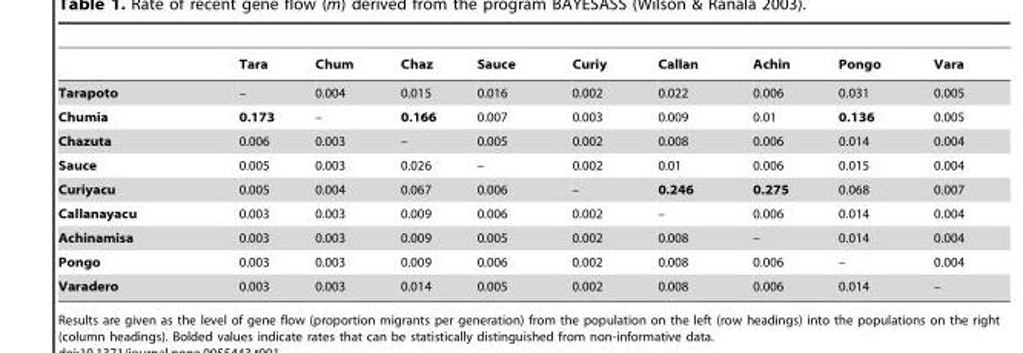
<table><thead><tr><td></td><td>Tara</td><td>Chum</td><td>Chaz</td><td>Sauce</td><td>Curiy</td><td>Callan</td><td>Achin</td><td>Pongo</td><td>Vara</td></tr></thead><tbody><tr><td>Tarapoto</td><td>–</td><td>0.004</td><td>0.015</td><td>0.016</td><td>0.002</td><td>0.022</td><td>0.006</td><td>0.031</td><td>0.005</td></tr><tr><td>Chumia</td><td>0.173</td><td>–</td><td>0.166</td><td>0.007</td><td>0.003</td><td>0.009</td><td>0.01</td><td>0.136</td><td>0.005</td></tr><tr><td>Chazuta</td><td>0.006</td><td>0.003</td><td>–</td><td>0.005</td><td>0.002</td><td>0.008</td><td>0.006</td><td>0.014</td><td>0.004</td></tr><tr><td>Sauce</td><td>0.005</td><td>0.003</td><td>0.026</td><td>–</td><td>0.002</td><td>0.01</td><td>0.006</td><td>0.015</td><td>0.004</td></tr><tr><td>Curiyacu</td><td>0.005</td><td>0.004</td><td>0.067</td><td>0.006</td><td>–</td><td>0.246</td><td>0.275</td><td>0.068</td><td>0.007</td></tr><tr><td>Callanayacu</td><td>0.003</td><td>0.003</td><td>0.009</td><td>0.006</td><td>0.002</td><td>–</td><td>0.006</td><td>0.014</td><td>0.004</td></tr><tr><td>Achinamisa</td><td>0.003</td><td>0.003</td><td>0.009</td><td>0.005</td><td>0.002</td><td>0.008</td><td>–</td><td>0.014</td><td>0.004</td></tr><tr><td>Pongo</td><td>0.003</td><td>0.003</td><td>0.009</td><td>0.006</td><td>0.002</td><td>0.008</td><td>0.006</td><td>–</td><td>0.004</td></tr><tr><td>Varadero</td><td>0.003</td><td>0.003</td><td>0.014</td><td>0.005</td><td>0.002</td><td>0.008</td><td>0.006</td><td>0.014</td><td>–</td></tr></tbody></table>